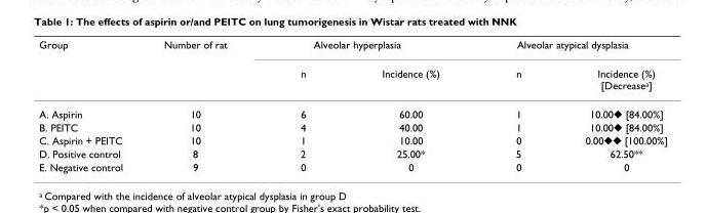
<table><thead><tr><td rowspan="2">Group</td><td rowspan="2">Number of rat</td><td colspan="2">Alveolar hyperplasia</td><td colspan="2">Alveolar atypical dysplasia</td></tr><tr><td>n</td><td>Incidence (%)</td><td>n</td><td>Incidence (%) [Decrease<sup>a</sup>]</td></tr></thead><tbody><tr><td>A. Aspirin</td><td>10</td><td>6</td><td>60.00</td><td>1</td><td>10.00<sup>◆</sup> [84.00%]</td></tr><tr><td>B. PEITC</td><td>10</td><td>4</td><td>40.00</td><td>1</td><td>10.00<sup>◆</sup> [84.00%]</td></tr><tr><td>C. Aspirin + PEITC</td><td>10</td><td>1</td><td>10.00</td><td>0</td><td>0.00<sup>◆◆</sup> [100.00%]</td></tr><tr><td>D. Positive control</td><td>8</td><td>2</td><td>25.00*</td><td>5</td><td>62.50**</td></tr><tr><td>E. Negative control</td><td>9</td><td>0</td><td>0</td><td>0</td><td>0</td></tr></tbody></table>